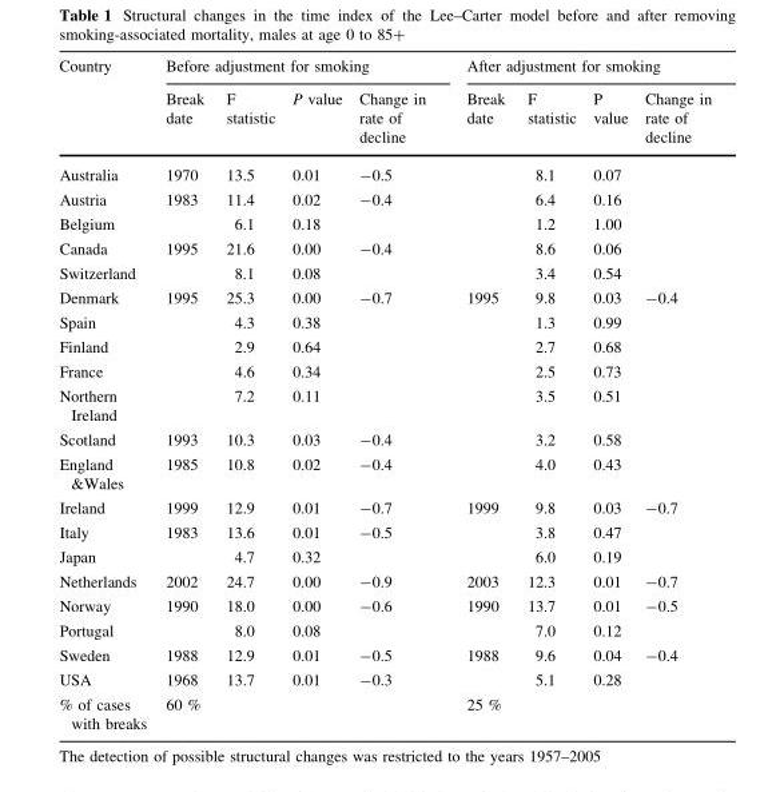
<table><thead><tr><td rowspan="2">Country</td><td colspan="4">Before adjustment for smoking</td><td colspan="4">After adjustment for smoking</td></tr><tr><td>Break date</td><td>F statistic</td><td>P value</td><td>Change in rate of decline</td><td>Break date</td><td>F statistic</td><td>P value</td><td>Change in rate of decline</td></tr></thead><tbody><tr><td>Australia</td><td>1970</td><td>13.5</td><td>0.01</td><td>-0.5</td><td></td><td>8.1</td><td>0.07</td><td></td></tr><tr><td>Austria</td><td>1983</td><td>11.4</td><td>0.02</td><td>-0.4</td><td></td><td>6.4</td><td>0.16</td><td></td></tr><tr><td>Belgium</td><td></td><td>6.1</td><td>0.18</td><td></td><td></td><td>1.2</td><td>1.00</td><td></td></tr><tr><td>Canada</td><td>1995</td><td>21.6</td><td>0.00</td><td>-0.4</td><td></td><td>8.6</td><td>0.06</td><td></td></tr><tr><td>Switzerland</td><td></td><td>8.1</td><td>0.08</td><td></td><td></td><td>3.4</td><td>0.54</td><td></td></tr><tr><td>Denmark</td><td>1995</td><td>25.3</td><td>0.00</td><td>-0.7</td><td>1995</td><td>9.8</td><td>0.03</td><td>-0.4</td></tr><tr><td>Spain</td><td></td><td>4.3</td><td>0.38</td><td></td><td></td><td>1.3</td><td>0.99</td><td></td></tr><tr><td>Finland</td><td></td><td>2.9</td><td>0.64</td><td></td><td></td><td>2.7</td><td>0.68</td><td></td></tr><tr><td>France</td><td></td><td>4.6</td><td>0.34</td><td></td><td></td><td>2.5</td><td>0.73</td><td></td></tr><tr><td>Northern Ireland</td><td></td><td>7.2</td><td>0.11</td><td></td><td></td><td>3.5</td><td>0.51</td><td></td></tr><tr><td>Scotland</td><td>1993</td><td>10.3</td><td>0.03</td><td>-0.4</td><td></td><td>3.2</td><td>0.58</td><td></td></tr><tr><td>England &amp;Wales</td><td>1985</td><td>10.8</td><td>0.02</td><td>-0.4</td><td></td><td>4.0</td><td>0.43</td><td></td></tr><tr><td>Ireland</td><td>1999</td><td>12.9</td><td>0.01</td><td>-0.7</td><td>1999</td><td>9.8</td><td>0.03</td><td>-0.7</td></tr><tr><td>Italy</td><td>1983</td><td>13.6</td><td>0.01</td><td>-0.5</td><td></td><td>3.8</td><td>0.47</td><td></td></tr><tr><td>Japan</td><td></td><td>4.7</td><td>0.32</td><td></td><td></td><td>6.0</td><td>0.19</td><td></td></tr><tr><td>Netherlands</td><td>2002</td><td>24.7</td><td>0.00</td><td>-0.9</td><td>2003</td><td>12.3</td><td>0.01</td><td>-0.7</td></tr><tr><td>Norway</td><td>1990</td><td>18.0</td><td>0.00</td><td>-0.6</td><td>1990</td><td>13.7</td><td>0.01</td><td>-0.5</td></tr><tr><td>Portugal</td><td></td><td>8.0</td><td>0.08</td><td></td><td></td><td>7.0</td><td>0.12</td><td></td></tr><tr><td>Sweden</td><td>1988</td><td>12.9</td><td>0.01</td><td>-0.5</td><td>1988</td><td>9.6</td><td>0.04</td><td>-0.4</td></tr><tr><td>USA</td><td>1968</td><td>13.7</td><td>0.01</td><td>-0.3</td><td></td><td>5.1</td><td>0.28</td><td></td></tr><tr><td>% of cases with breaks</td><td>60 %</td><td></td><td></td><td></td><td>25 %</td><td></td><td></td><td></td></tr></tbody></table>